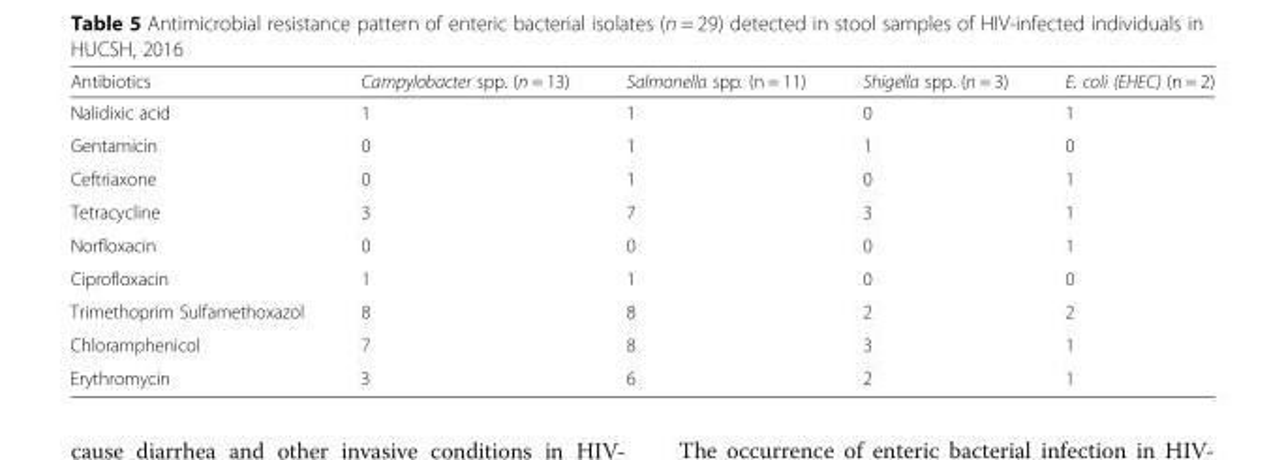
<table><thead><tr><td>Antibiotics</td><td>Campylobacter spp. (n = 13)</td><td>Salmonella spp. (n = 11)</td><td>Shigella spp. (n = 3)</td><td>E. coli (EHEC) (n = 2)</td></tr></thead><tbody><tr><td>Nalidixic acid</td><td>1</td><td>1</td><td>0</td><td>1</td></tr><tr><td>Gentamicin</td><td>0</td><td>1</td><td>1</td><td>0</td></tr><tr><td>Ceftriaxone</td><td>0</td><td>1</td><td>0</td><td>1</td></tr><tr><td>Tetracycline</td><td>3</td><td>7</td><td>3</td><td>1</td></tr><tr><td>Norfloxacin</td><td>0</td><td>0</td><td>0</td><td>1</td></tr><tr><td>Ciprofloxacin</td><td>1</td><td>1</td><td>0</td><td>0</td></tr><tr><td>Trimethoprim Sulfamethoxazol</td><td>8</td><td>8</td><td>2</td><td>2</td></tr><tr><td>Chloramphenicol</td><td>7</td><td>8</td><td>3</td><td>1</td></tr><tr><td>Erythromycin</td><td>3</td><td>6</td><td>2</td><td>1</td></tr></tbody></table>